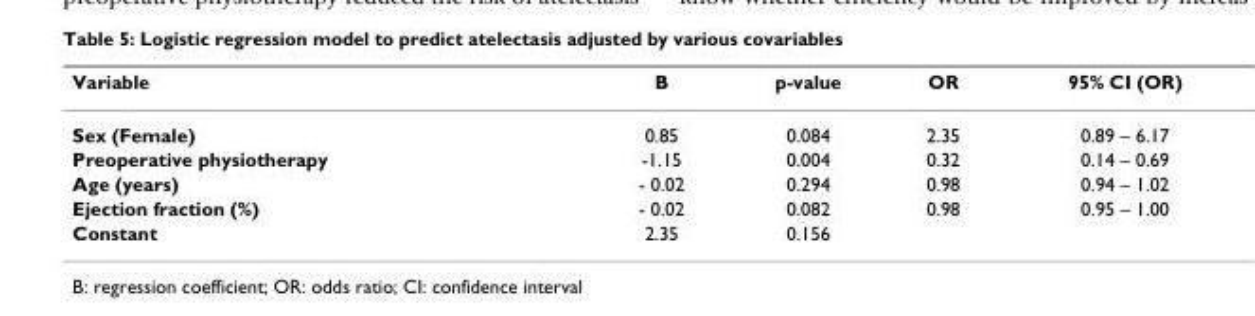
<table><thead><tr><td>Variable</td><td>B</td><td>p-value</td><td>OR</td><td>95% CI (OR)</td></tr></thead><tbody><tr><td>Sex (Female)</td><td>0.85</td><td>0.084</td><td>2.35</td><td>0.89 – 6.17</td></tr><tr><td>Preoperative physiotherapy</td><td>-1.15</td><td>0.004</td><td>0.32</td><td>0.14 – 0.69</td></tr><tr><td>Age (years)</td><td>- 0.02</td><td>0.294</td><td>0.98</td><td>0.94 – 1.02</td></tr><tr><td>Ejection fraction (%)</td><td>- 0.02</td><td>0.082</td><td>0.98</td><td>0.95 – 1.00</td></tr><tr><td>Constant</td><td>2.35</td><td>0.156</td><td></td><td></td></tr></tbody></table>